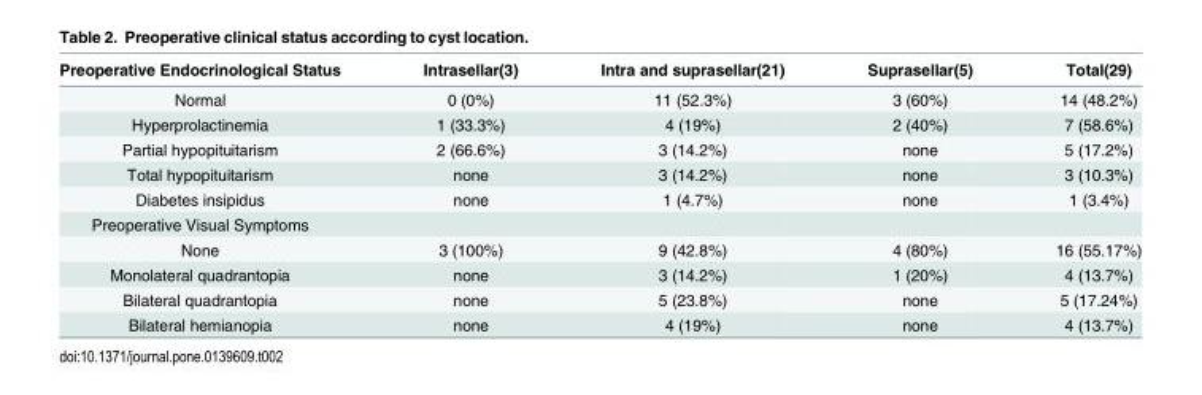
<table><thead><tr><td>Preoperative Endocrinological Status</td><td>Intrasellar(3)</td><td>Intra and suprasellar(21)</td><td>Suprasellar(5)</td><td>Total(29)</td></tr></thead><tbody><tr><td>Normal</td><td>0 (0%)</td><td>11 (52.3%)</td><td>3 (60%)</td><td>14 (48.2%)</td></tr><tr><td>Hyperprolactinemia</td><td>1 (33.3%)</td><td>4 (19%)</td><td>2 (40%)</td><td>7 (58.6%)</td></tr><tr><td>Partial hypopituitarism</td><td>2 (66.6%)</td><td>3 (14.2%)</td><td>none</td><td>5 (17.2%)</td></tr><tr><td>Total hypopituitarism</td><td>none</td><td>3 (14.2%)</td><td>none</td><td>3 (10.3%)</td></tr><tr><td>Diabetes insipidus</td><td>none</td><td>1 (4.7%)</td><td>none</td><td>1 (3.4%)</td></tr><tr><td colspan="5">Preoperative Visual Symptoms</td></tr><tr><td>None</td><td>3 (100%)</td><td>9 (42.8%)</td><td>4 (80%)</td><td>16 (55.17%)</td></tr><tr><td>Monolateral quadrantopia</td><td>none</td><td>3 (14.2%)</td><td>1 (20%)</td><td>4 (13.7%)</td></tr><tr><td>Bilateral quadrantopia</td><td>none</td><td>5 (23.8%)</td><td>none</td><td>5 (17.24%)</td></tr><tr><td>Bilateral hemianopia</td><td>none</td><td>4 (19%)</td><td>none</td><td>4 (13.7%)</td></tr></tbody></table>